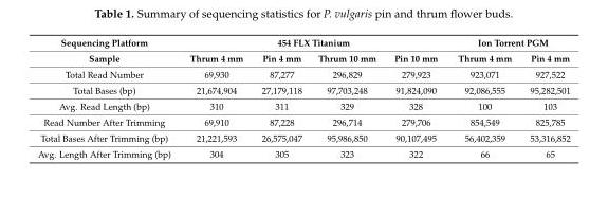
<table><thead><tr><td rowspan="2">Sequencing Platform Sample</td><td colspan="4">454 FLX Titanium</td><td colspan="2">Ion Torrent PGM</td></tr><tr><td>Thrum 4 mm</td><td>Pin 4 mm</td><td>Thrum 10 mm</td><td>Pin 10 mm</td><td>Thrum 4 mm</td><td>Pin 4 mm</td></tr></thead><tbody><tr><td>Total Read Number</td><td>69,930</td><td>87,277</td><td>296,829</td><td>279,923</td><td>923,071</td><td>927,522</td></tr><tr><td>Total Bases (bp)</td><td>21,674,904</td><td>27,179,118</td><td>97,703,248</td><td>91,824,090</td><td>92,086,555</td><td>95,282,501</td></tr><tr><td>Avg. Read Length (bp)</td><td>310</td><td>311</td><td>329</td><td>328</td><td>100</td><td>103</td></tr><tr><td>Read Number After Trimming</td><td>69,910</td><td>87,228</td><td>296,714</td><td>279,706</td><td>854,549</td><td>825,785</td></tr><tr><td>Total Bases After Trimming (bp)</td><td>21,221,593</td><td>26,575,047</td><td>95,986,850</td><td>90,107,495</td><td>56,402,359</td><td>53,316,852</td></tr><tr><td>Avg. Length After Trimming (bp)</td><td>304</td><td>305</td><td>323</td><td>322</td><td>66</td><td>65</td></tr></tbody></table>